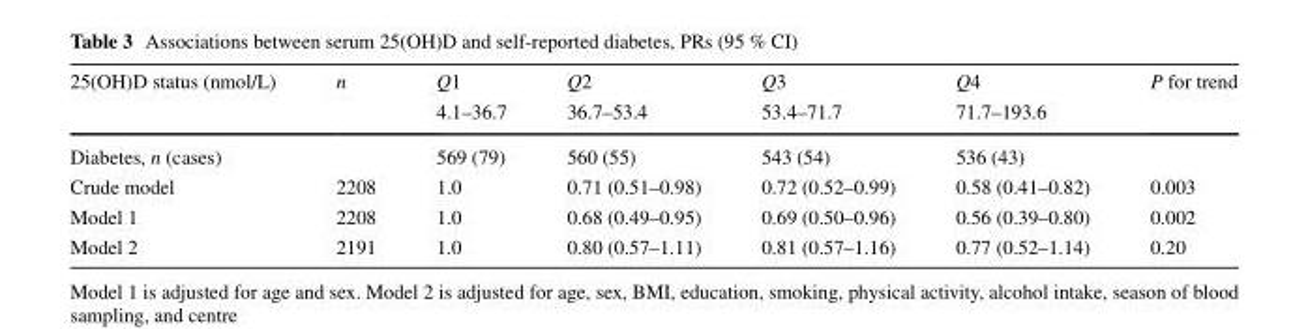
<table><thead><tr><td rowspan="2">25(OH)D status (nmol/L)</td><td rowspan="2">n</td><td rowspan="2">Q1 4.1–36.7</td><td rowspan="2">Q2 36.7–53.4</td><td rowspan="2">Q3 53.4–71.7</td><td rowspan="2">Q4 71.7–193.6</td><td rowspan="2">P for trend</td></tr><tr></tr></thead><tbody><tr><td>Diabetes, n (cases)</td><td></td><td>569 (79)</td><td>560 (55)</td><td>543 (54)</td><td>536 (43)</td><td></td></tr><tr><td>Crude model</td><td>2208</td><td>1.0</td><td>0.71 (0.51–0.98)</td><td>0.72 (0.52–0.99)</td><td>0.58 (0.41–0.82)</td><td>0.003</td></tr><tr><td>Model 1</td><td>2208</td><td>1.0</td><td>0.68 (0.49–0.95)</td><td>0.69 (0.50–0.96)</td><td>0.56 (0.39–0.80)</td><td>0.002</td></tr><tr><td>Model 2</td><td>2191</td><td>1.0</td><td>0.80 (0.57–1.11)</td><td>0.81 (0.57–1.16)</td><td>0.77 (0.52–1.14)</td><td>0.20</td></tr></tbody></table>